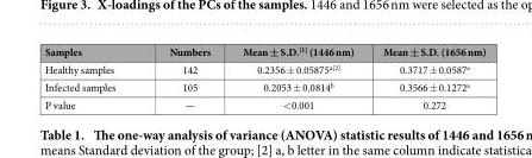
<table><thead><tr><td>Samples</td><td>Numbers</td><td>Mean ± S.D.<sup>[1]</sup> (1446 nm)</td><td>Mean ± S.D. (1656 nm)</td></tr></thead><tbody><tr><td>Healthy samples</td><td>142</td><td>0.2356 ± 0.05875<sup>a[2]</sup></td><td>0.3717 ± 0.0587<sup>a</sup></td></tr><tr><td>Infected samples</td><td>105</td><td>0.2053 ± 0.0814<sup>b</sup></td><td>0.3566 ± 0.1272<sup>a</sup></td></tr><tr><td>P value</td><td>—</td><td>&lt; 0.001</td><td>0.272</td></tr></tbody></table>